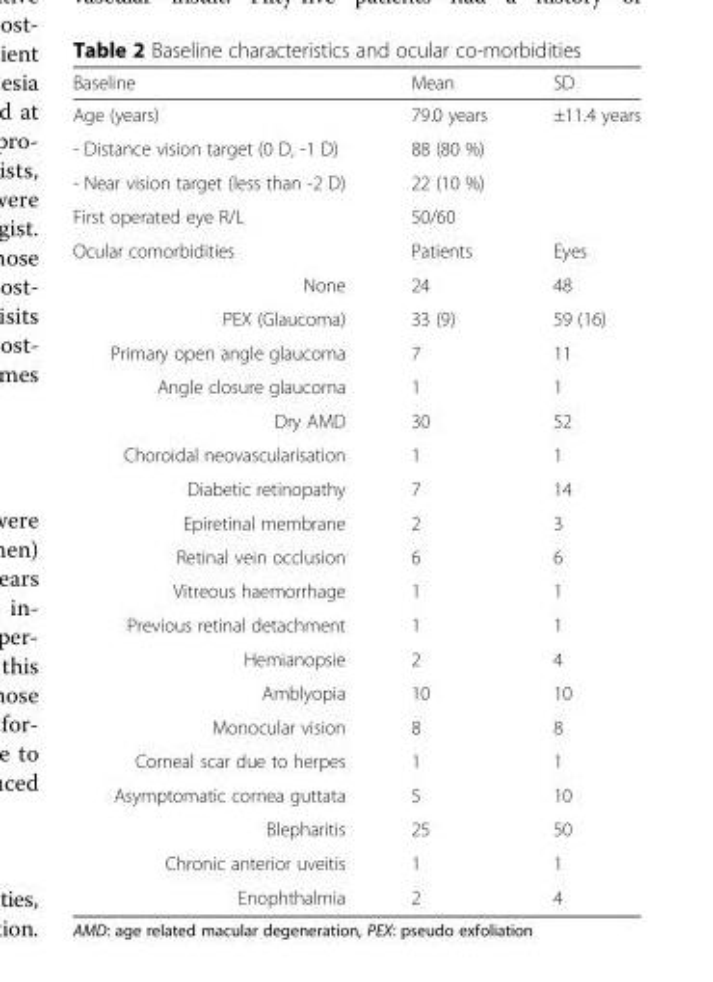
<table><thead><tr><td>Baseline</td><td>Mean</td><td>SD</td></tr></thead><tbody><tr><td>Age (years)</td><td>79.0 years</td><td>±11.4 years</td></tr><tr><td>- Distance vision target (0 D, -1 D)</td><td>88 (80 %)</td><td></td></tr><tr><td>- Near vision target (less than -2 D)</td><td>22 (10 %)</td><td></td></tr><tr><td>First operated eye R/L</td><td>50/60</td><td></td></tr><tr><td>Ocular comorbidities</td><td>Patients</td><td>Eyes</td></tr><tr><td>None</td><td>24</td><td>48</td></tr><tr><td>PEX (Glaucoma)</td><td>33 (9)</td><td>59 (16)</td></tr><tr><td>Primary open angle glaucoma</td><td>7</td><td>11</td></tr><tr><td>Angle closure glaucoma</td><td>1</td><td>1</td></tr><tr><td>Dry AMD</td><td>30</td><td>52</td></tr><tr><td>Choroidal neovascularisation</td><td>1</td><td>1</td></tr><tr><td>Diabetic retinopathy</td><td>7</td><td>14</td></tr><tr><td>Epiretinal membrane</td><td>2</td><td>3</td></tr><tr><td>Retinal vein occlusion</td><td>6</td><td>6</td></tr><tr><td>Vitreous haemorrhage</td><td>1</td><td>1</td></tr><tr><td>Previous retinal detachment</td><td>1</td><td>1</td></tr><tr><td>Hemianopsie</td><td>2</td><td>4</td></tr><tr><td>Amblyopia</td><td>10</td><td>10</td></tr><tr><td>Monocular vision</td><td>8</td><td>8</td></tr><tr><td>Corneal scar due to herpes</td><td>1</td><td>1</td></tr><tr><td>Asymptomatic cornea guttata</td><td>5</td><td>10</td></tr><tr><td>Blepharitis</td><td>25</td><td>50</td></tr><tr><td>Chronic anterior uveitis</td><td>1</td><td>1</td></tr><tr><td>Enophthalmia</td><td>2</td><td>4</td></tr></tbody></table>